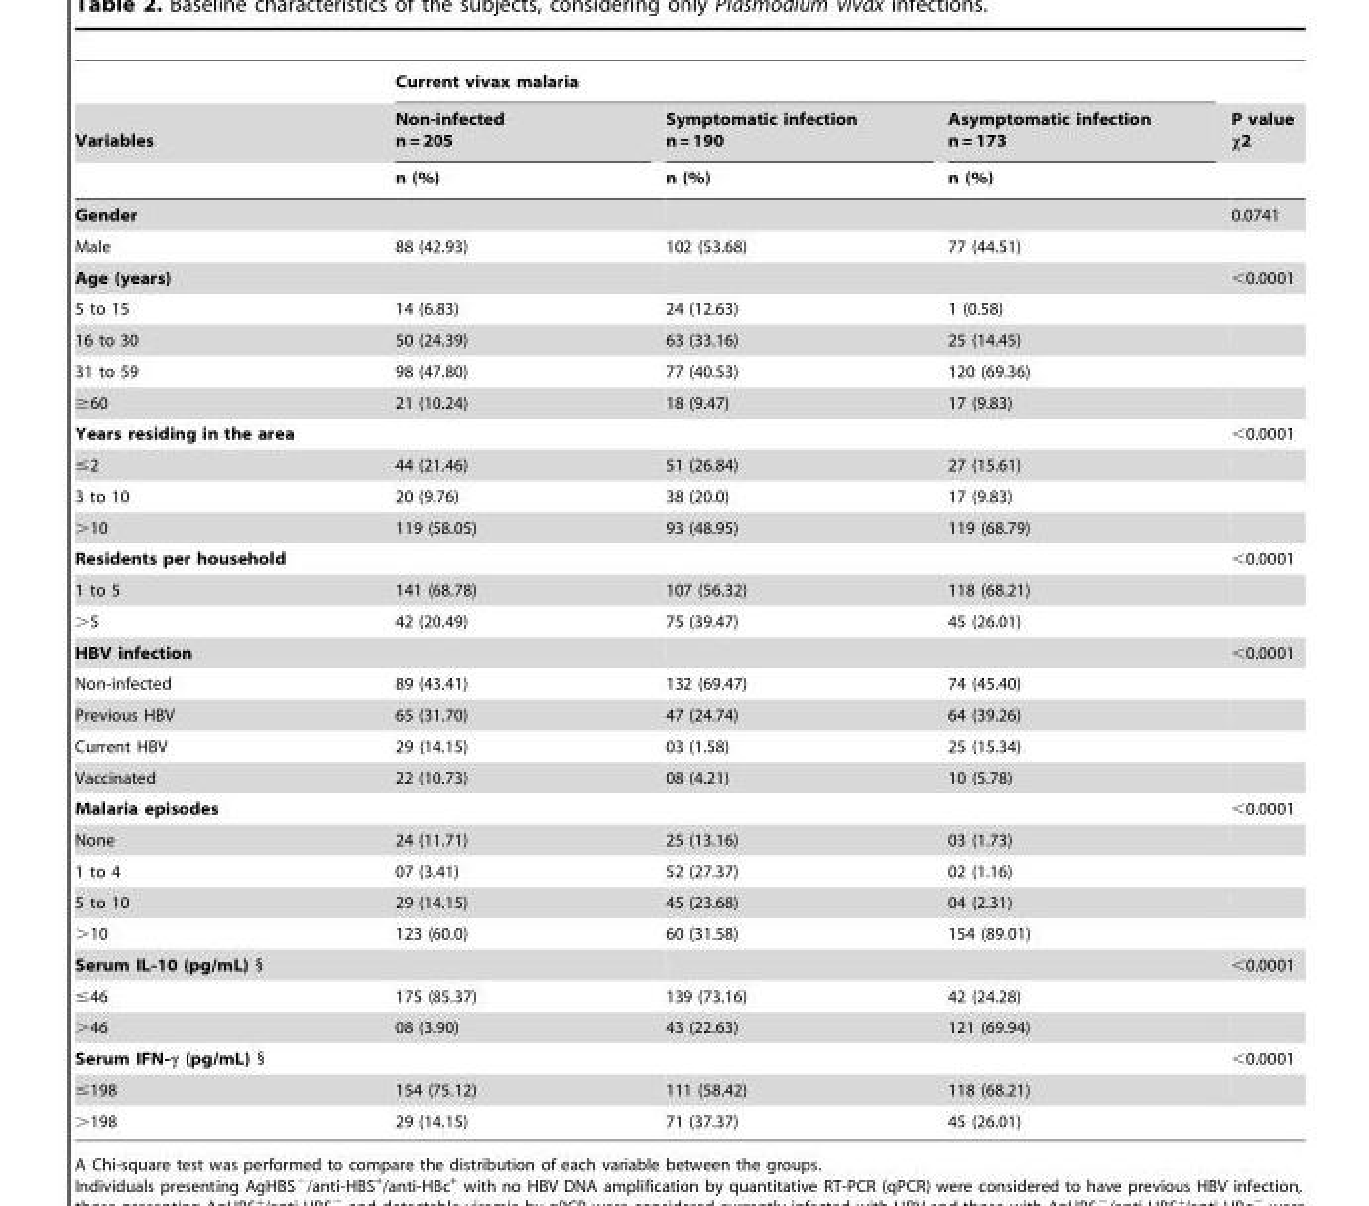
<table><thead><tr><td rowspan="3">Variables</td><td colspan="3">Current vivax malaria</td><td rowspan="3">P value χ2</td></tr><tr><td rowspan="2">Non-infected n = 205 n (%)</td><td rowspan="2">Symptomatic infection n = 190 n (%)</td><td rowspan="2">Asymptomatic infection n = 173 n (%)</td></tr><tr></tr></thead><tbody><tr><td>Gender</td><td></td><td></td><td></td><td>0.0741</td></tr><tr><td>Male</td><td>88 (42.93)</td><td>102 (53.68)</td><td>77 (44.51)</td><td></td></tr><tr><td>Age (years)</td><td></td><td></td><td></td><td>&lt;0.0001</td></tr><tr><td>5 to 15</td><td>14 (6.83)</td><td>24 (12.63)</td><td>1 (0.58)</td><td></td></tr><tr><td>16 to 30</td><td>50 (24.39)</td><td>63 (33.16)</td><td>25 (14.45)</td><td></td></tr><tr><td>31 to 59</td><td>98 (47.80)</td><td>77 (40.53)</td><td>120 (69.36)</td><td></td></tr><tr><td>≥60</td><td>21 (10.24)</td><td>18 (9.47)</td><td>17 (9.83)</td><td></td></tr><tr><td>Years residing in the area</td><td></td><td></td><td></td><td>&lt;0.0001</td></tr><tr><td>≤2</td><td>44 (21.46)</td><td>51 (26.84)</td><td>27 (15.61)</td><td></td></tr><tr><td>3 to 10</td><td>20 (9.76)</td><td>38 (20.0)</td><td>17 (9.83)</td><td></td></tr><tr><td>&gt;10</td><td>119 (58.05)</td><td>93 (48.95)</td><td>119 (68.79)</td><td></td></tr><tr><td>Residents per household</td><td></td><td></td><td></td><td>&lt;0.0001</td></tr><tr><td>1 to 5</td><td>141 (68.78)</td><td>107 (56.32)</td><td>118 (68.21)</td><td></td></tr><tr><td>&gt;5</td><td>42 (20.49)</td><td>75 (39.47)</td><td>45 (26.01)</td><td></td></tr><tr><td>HBV infection</td><td></td><td></td><td></td><td>&lt;0.0001</td></tr><tr><td>Non-infected</td><td>89 (43.41)</td><td>132 (69.47)</td><td>74 (45.40)</td><td></td></tr><tr><td>Previous HBV</td><td>65 (31.70)</td><td>47 (24.74)</td><td>64 (39.26)</td><td></td></tr><tr><td>Current HBV</td><td>29 (14.15)</td><td>03 (1.58)</td><td>25 (15.34)</td><td></td></tr><tr><td>Vaccinated</td><td>22 (10.73)</td><td>08 (4.21)</td><td>10 (5.78)</td><td></td></tr><tr><td>Malaria episodes</td><td></td><td></td><td></td><td>&lt;0.0001</td></tr><tr><td>None</td><td>24 (11.71)</td><td>25 (13.16)</td><td>03 (1.73)</td><td></td></tr><tr><td>1 to 4</td><td>07 (3.41)</td><td>52 (27.37)</td><td>02 (1.16)</td><td></td></tr><tr><td>5 to 10</td><td>29 (14.15)</td><td>45 (23.68)</td><td>04 (2.31)</td><td></td></tr><tr><td>&gt;10</td><td>123 (60.0)</td><td>60 (31.58)</td><td>154 (89.01)</td><td></td></tr><tr><td>Serum IL-10 (pg/mL) §</td><td></td><td></td><td></td><td>&lt;0.0001</td></tr><tr><td>≤46</td><td>175 (85.37)</td><td>139 (73.16)</td><td>42 (24.28)</td><td></td></tr><tr><td>&gt;46</td><td>08 (3.90)</td><td>43 (22.63)</td><td>121 (69.94)</td><td></td></tr><tr><td>Serum IFN-γ (pg/mL) §</td><td></td><td></td><td></td><td>&lt;0.0001</td></tr><tr><td>≤198</td><td>154 (75.12)</td><td>111 (58.42)</td><td>118 (68.21)</td><td></td></tr><tr><td>&gt;198</td><td>29 (14.15)</td><td>71 (37.37)</td><td>45 (26.01)</td><td></td></tr></tbody></table>